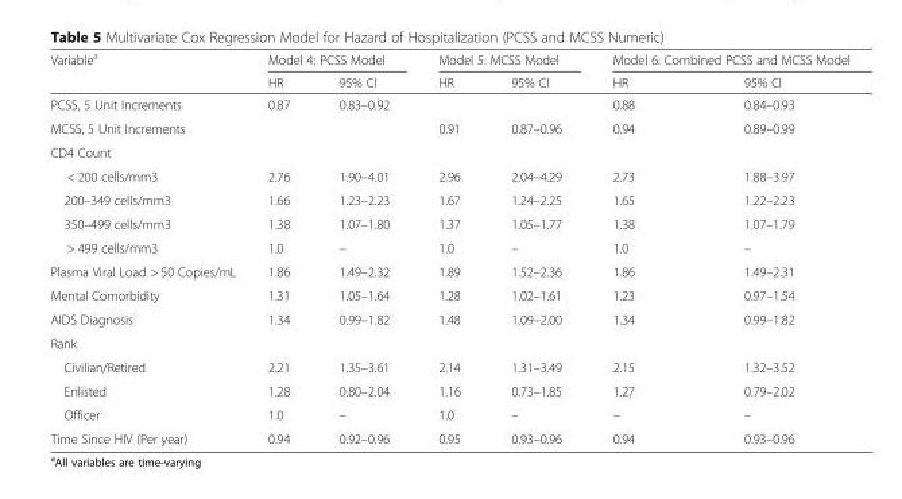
<table><thead><tr><td rowspan="2">Variable<sup>a</sup></td><td colspan="2">Model 4: PCSS Model</td><td colspan="2">Model 5: MCSS Model</td><td colspan="2">Model 6: Combined PCSS and MCSS Model</td></tr><tr><td>HR</td><td>95% CI</td><td>HR</td><td>95% CI</td><td>HR</td><td>95% CI</td></tr></thead><tbody><tr><td>PCSS, 5 Unit Increments</td><td>0.87</td><td>0.83–0.92</td><td colspan="2"></td><td>0.88</td><td>0.84–0.93</td></tr><tr><td>MCSS, 5 Unit Increments</td><td colspan="2"></td><td>0.91</td><td>0.87–0.96</td><td>0.94</td><td>0.89–0.99</td></tr><tr><td colspan="7">CD4 Count</td></tr><tr><td>&lt; 200 cells/mm3</td><td>2.76</td><td>1.90–4.01</td><td>2.96</td><td>2.04–4.29</td><td>2.73</td><td>1.88–3.97</td></tr><tr><td>200–349 cells/mm3</td><td>1.66</td><td>1.23–2.23</td><td>1.67</td><td>1.24–2.25</td><td>1.65</td><td>1.22–2.23</td></tr><tr><td>350–499 cells/mm3</td><td>1.38</td><td>1.07–1.80</td><td>1.37</td><td>1.05–1.77</td><td>1.38</td><td>1.07–1.79</td></tr><tr><td>&gt; 499 cells/mm3</td><td>1.0</td><td>–</td><td>1.0</td><td>–</td><td>1.0</td><td>–</td></tr><tr><td>Plasma Viral Load &gt; 50 Copies/mL</td><td>1.86</td><td>1.49–2.32</td><td>1.89</td><td>1.52–2.36</td><td>1.86</td><td>1.49–2.31</td></tr><tr><td>Mental Comorbidity</td><td>1.31</td><td>1.05–1.64</td><td>1.28</td><td>1.02–1.61</td><td>1.23</td><td>0.97–1.54</td></tr><tr><td>AIDS Diagnosis</td><td>1.34</td><td>0.99–1.82</td><td>1.48</td><td>1.09–2.00</td><td>1.34</td><td>0.99–1.82</td></tr><tr><td colspan="7">Rank</td></tr><tr><td>Civilian/Retired</td><td>2.21</td><td>1.35–3.61</td><td>2.14</td><td>1.31–3.49</td><td>2.15</td><td>1.32–3.52</td></tr><tr><td>Enlisted</td><td>1.28</td><td>0.80–2.04</td><td>1.16</td><td>0.73–1.85</td><td>1.27</td><td>0.79–2.02</td></tr><tr><td>Officer</td><td>1.0</td><td>–</td><td>1.0</td><td>–</td><td>–</td><td>–</td></tr><tr><td>Time Since HIV (Per year)</td><td>0.94</td><td>0.92–0.96</td><td>0.95</td><td>0.93–0.96</td><td>0.94</td><td>0.93–0.96</td></tr></tbody></table>